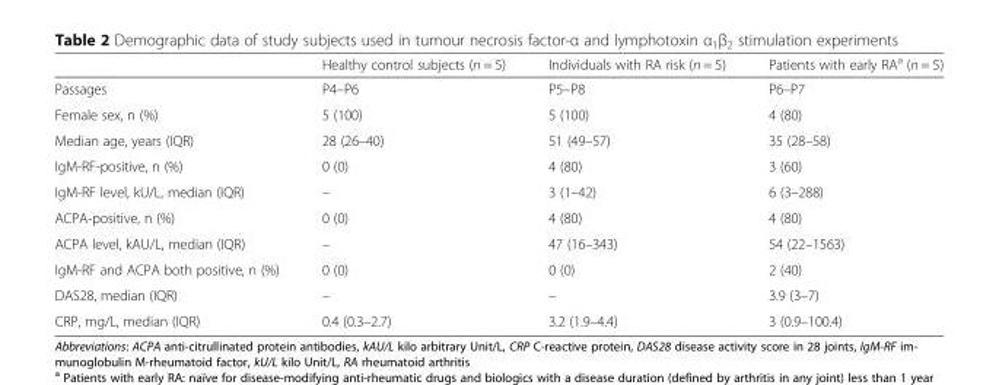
<table><thead><tr><td></td><td>Healthy control subjects (n = 5)</td><td>Individuals with RA risk (n = 5)</td><td>Patients with early RA<sup>a</sup> (n = 5)</td></tr></thead><tbody><tr><td>Passages</td><td>P4–P6</td><td>P5–P8</td><td>P6–P7</td></tr><tr><td>Female sex, n (%)</td><td>5 (100)</td><td>5 (100)</td><td>4 (80)</td></tr><tr><td>Median age, years (IQR)</td><td>28 (26–40)</td><td>51 (49–57)</td><td>35 (28–58)</td></tr><tr><td>IgM-RF-positive, n (%)</td><td>0 (0)</td><td>4 (80)</td><td>3 (60)</td></tr><tr><td>IgM-RF level, kU/L, median (IQR)</td><td>–</td><td>3 (1–42)</td><td>6 (3–288)</td></tr><tr><td>ACPA-positive, n (%)</td><td>0 (0)</td><td>4 (80)</td><td>4 (80)</td></tr><tr><td>ACPA level, kAU/L, median (IQR)</td><td>–</td><td>47 (16–343)</td><td>54 (22–1563)</td></tr><tr><td>IgM-RF and ACPA both positive, n (%)</td><td>0 (0)</td><td>0 (0)</td><td>2 (40)</td></tr><tr><td>DAS28, median (IQR)</td><td>–</td><td>–</td><td>3.9 (3–7)</td></tr><tr><td>CRP, mg/L, median (IQR)</td><td>0.4 (0.3–2.7)</td><td>3.2 (1.9–4.4)</td><td>3 (0.9–100.4)</td></tr></tbody></table>